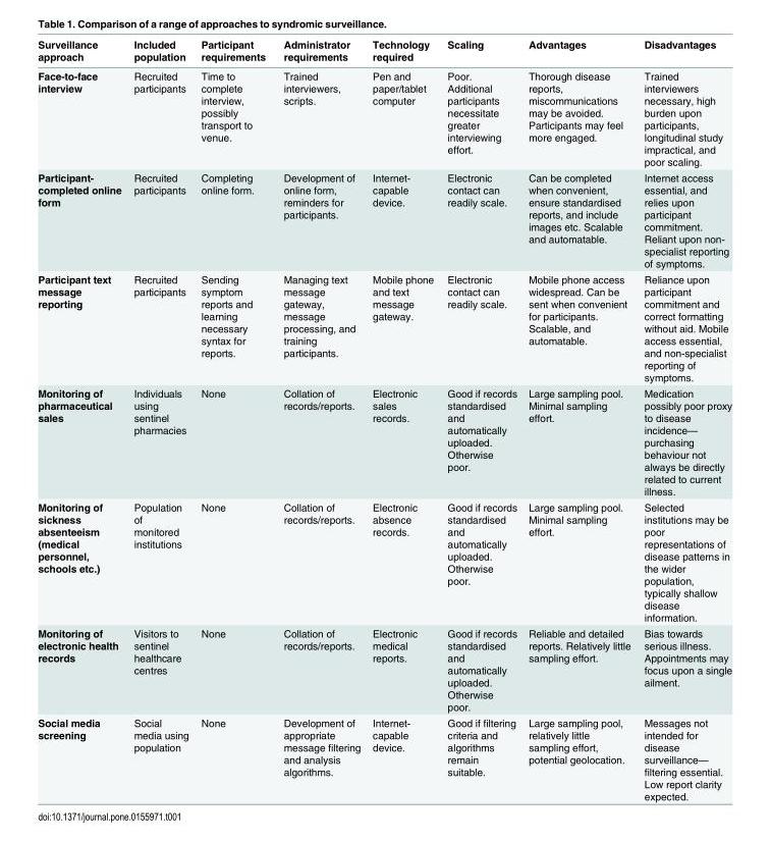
<table><thead><tr><td>Surveillance approach</td><td>Included population</td><td>Participant requirements</td><td>Administrator requirements</td><td>Technology required</td><td>Scaling</td><td>Advantages</td><td>Disadvantages</td></tr></thead><tbody><tr><td>Face-to-face interview</td><td>Recruited participants</td><td>Time to complete interview, possibly transport to venue.</td><td>Trained interviewers, scripts.</td><td>Pen and paper/tablet computer</td><td>Poor. Additional participants necessitate greater interviewing effort.</td><td>Thorough disease reports, miscommunications may be avoided. Participants may feel more engaged.</td><td>Trained interviewers necessary, high burden upon participants, longitudinal study impractical, and poor scaling.</td></tr><tr><td>Participant- completed online form</td><td>Recruited participants</td><td>Completing online form.</td><td>Development of online form, reminders for participants.</td><td>Internet- capable device.</td><td>Electronic contact can readily scale.</td><td>Can be completed when convenient, ensure standardised reports, and include images etc. Scalable and automatable.</td><td>Internet access essential, and relies upon participant commitment. Reliant upon non- specialist reporting of symptoms.</td></tr><tr><td>Participant text message reporting</td><td>Recruited participants</td><td>Sending symptom reports and learning necessary syntax for reports.</td><td>Managing text message gateway, message processing, and training participants.</td><td>Mobile phone and text message gateway.</td><td>Electronic contact can readily scale.</td><td>Mobile phone access widespread. Can be sent when convenient for participants. Scalable, and automatable.</td><td>Reliance upon participant commitment and correct formatting without aid. Mobile access essential, and non-specialist reporting of symptoms.</td></tr><tr><td>Monitoring of pharmaceutical sales</td><td>Individuals using sentinel pharmacies</td><td>None</td><td>Collation of records/reports.</td><td>Electronic sales records.</td><td>Good if records standardised and automatically uploaded. Otherwise poor.</td><td>Large sampling pool. Minimal sampling effort.</td><td>Medication possibly poor proxy to disease incidence— purchasing behaviour not always be directly related to current illness.</td></tr><tr><td>Monitoring of sickness absenteeism (medical personnel, schools etc.)</td><td>Population of monitored institutions</td><td>None</td><td>Collation of records/reports.</td><td>Electronic absence records.</td><td>Good if records standardised and automatically uploaded. Otherwise poor.</td><td>Large sampling pool. Minimal sampling effort.</td><td>Selected institutions may be poor representations of disease patterns in the wider population, typically shallow disease information.</td></tr><tr><td>Monitoring of electronic health records</td><td>Visitors to sentinel healthcare centres</td><td>None</td><td>Collation of records/reports.</td><td>Electronic medical reports.</td><td>Good if records standardised and automatically uploaded. Otherwise poor.</td><td>Reliable and detailed reports. Relatively little sampling effort.</td><td>Bias towards serious illness. Appointments may focus upon a single ailment.</td></tr><tr><td>Social media screening</td><td>Social media using population</td><td>None</td><td>Development of appropriate message filtering and analysis algorithms.</td><td>Internet- capable device.</td><td>Good if filtering criteria and algorithms remain suitable.</td><td>Large sampling pool, relatively little sampling effort, potential geolocation.</td><td>Messages not intended for disease surveillance— filtering essential. Low report clarity expected.</td></tr></tbody></table>